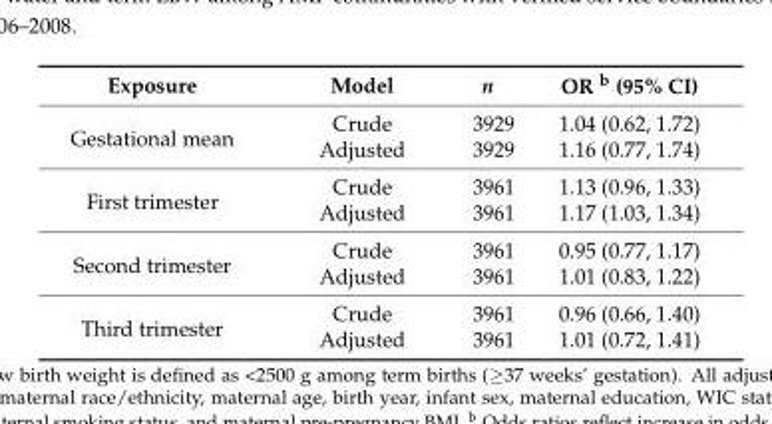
<table><thead><tr><td>Exposure</td><td>Model</td><td>n</td><td>OR <sup>b</sup> (95% CI)</td></tr></thead><tbody><tr><td rowspan="2">Gestational mean</td><td>Crude</td><td>3929</td><td>1.04 (0.62, 1.72)</td></tr><tr><td>Adjusted</td><td>3929</td><td>1.16 (0.77, 1.74)</td></tr><tr><td rowspan="2">First trimester</td><td>Crude</td><td>3961</td><td>1.13 (0.96, 1.33)</td></tr><tr><td>Adjusted</td><td>3961</td><td>1.17 (1.03, 1.34)</td></tr><tr><td rowspan="2">Second trimester</td><td>Crude</td><td>3961</td><td>0.95 (0.77, 1.17)</td></tr><tr><td>Adjusted</td><td>3961</td><td>1.01 (0.83, 1.22)</td></tr><tr><td rowspan="2">Third trimester</td><td>Crude</td><td>3961</td><td>0.96 (0.66, 1.40)</td></tr><tr><td>Adjusted</td><td>3961</td><td>1.01 (0.72, 1.41)</td></tr></tbody></table>